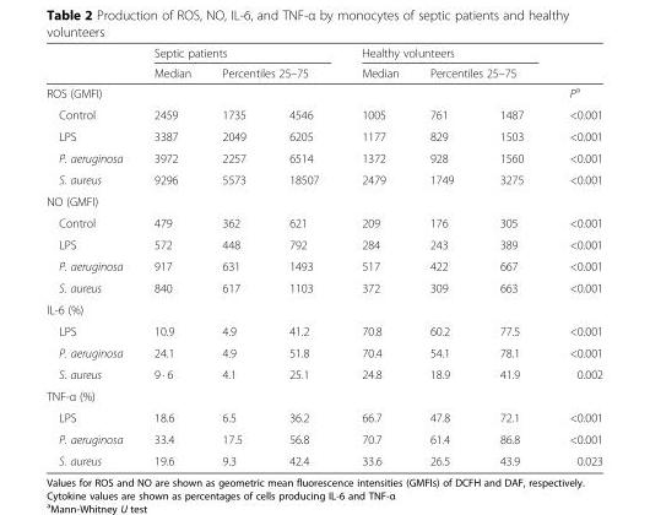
<table><thead><tr><td rowspan="3">ROS (GMFI)</td><td colspan="3">Septic patients</td><td colspan="3">Healthy volunteers</td><td rowspan="3">P<sup>a</sup></td></tr><tr><td rowspan="2">Median</td><td colspan="2">Percentiles 25–75</td><td rowspan="2">Median</td><td colspan="2">Percentiles 25–75</td></tr><tr><td></td><td></td><td></td><td></td></tr></thead><tbody><tr><td>Control</td><td>2459</td><td>1735</td><td>4546</td><td>1005</td><td>761</td><td>1487</td><td>&lt;0.001</td></tr><tr><td>LPS</td><td>3387</td><td>2049</td><td>6205</td><td>1177</td><td>829</td><td>1503</td><td>&lt;0.001</td></tr><tr><td>P. aeruginosa</td><td>3972</td><td>2257</td><td>6514</td><td>1372</td><td>928</td><td>1560</td><td>&lt;0.001</td></tr><tr><td>S. aureus</td><td>9296</td><td>5573</td><td>18507</td><td>2479</td><td>1749</td><td>3275</td><td>&lt;0.001</td></tr><tr><td colspan="8">NO (GMFI)</td></tr><tr><td>Control</td><td>479</td><td>362</td><td>621</td><td>209</td><td>176</td><td>305</td><td>&lt;0.001</td></tr><tr><td>LPS</td><td>572</td><td>448</td><td>792</td><td>284</td><td>243</td><td>389</td><td>&lt;0.001</td></tr><tr><td>P. aeruginosa</td><td>917</td><td>631</td><td>1493</td><td>517</td><td>422</td><td>667</td><td>&lt;0.001</td></tr><tr><td>S. aureus</td><td>840</td><td>617</td><td>1103</td><td>372</td><td>309</td><td>663</td><td>&lt;0.001</td></tr><tr><td colspan="8">IL-6 (%)</td></tr><tr><td>LPS</td><td>10.9</td><td>4.9</td><td>41.2</td><td>70.8</td><td>60.2</td><td>77.5</td><td>&lt;0.001</td></tr><tr><td>P. aeruginosa</td><td>24.1</td><td>4.9</td><td>51.8</td><td>70.4</td><td>54.1</td><td>78.1</td><td>&lt;0.001</td></tr><tr><td>S. aureus</td><td>9 · 6</td><td>4.1</td><td>25.1</td><td>24.8</td><td>18.9</td><td>41.9</td><td>0.002</td></tr><tr><td colspan="8">TNF-α (%)</td></tr><tr><td>LPS</td><td>18.6</td><td>6.5</td><td>36.2</td><td>66.7</td><td>47.8</td><td>72.1</td><td>&lt;0.001</td></tr><tr><td>P. aeruginosa</td><td>33.4</td><td>17.5</td><td>56.8</td><td>70.7</td><td>61.4</td><td>86.8</td><td>&lt;0.001</td></tr><tr><td>S. aureus</td><td>19.6</td><td>9.3</td><td>42.4</td><td>33.6</td><td>26.5</td><td>43.9</td><td>0.023</td></tr></tbody></table>